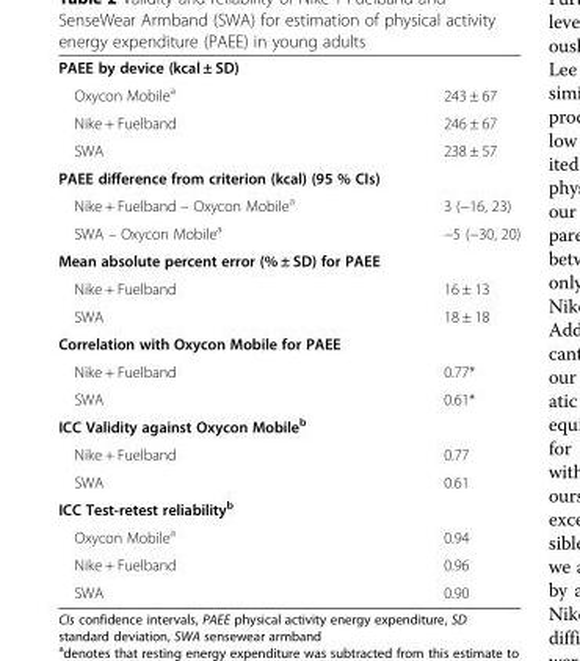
<table><tbody><tr><td colspan="2">PAEE by device (kcal ± SD)</td></tr><tr><td>Oxycon Mobile<sup>a</sup></td><td>243 ± 67</td></tr><tr><td>Nike + Fuelband</td><td>246 ± 67</td></tr><tr><td>SWA</td><td>238 ± 57</td></tr><tr><td colspan="2">PAEE difference from criterion (kcal) (95 % CIs)</td></tr><tr><td>Nike + Fuelband – Oxycon Mobile<sup>a</sup></td><td>3 (−16, 23)</td></tr><tr><td>SWA – Oxycon Mobile<sup>a</sup></td><td>−5 (−30, 20)</td></tr><tr><td colspan="2">Mean absolute percent error (% ± SD) for PAEE</td></tr><tr><td>Nike + Fuelband</td><td>16 ± 13</td></tr><tr><td>SWA</td><td>18 ± 18</td></tr><tr><td colspan="2">Correlation with Oxycon Mobile for PAEE</td></tr><tr><td>Nike + Fuelband</td><td>0.77*</td></tr><tr><td>SWA</td><td>0.61*</td></tr><tr><td colspan="2">ICC Validity against Oxycon Mobile<sup>b</sup></td></tr><tr><td>Nike + Fuelband</td><td>0.77</td></tr><tr><td>SWA</td><td>0.61</td></tr><tr><td colspan="2">ICC Test-retest reliability<sup>b</sup></td></tr><tr><td>Oxycon Mobile<sup>a</sup></td><td>0.94</td></tr><tr><td>Nike + Fuelband</td><td>0.96</td></tr><tr><td>SWA</td><td>0.90</td></tr></tbody></table>